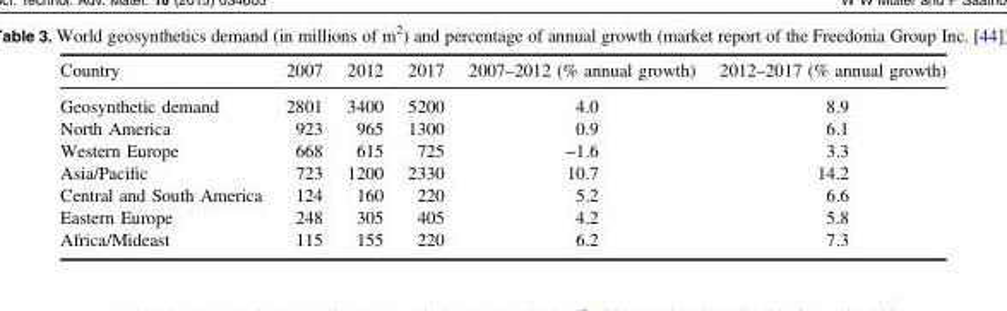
<table><thead><tr><td>Country</td><td>2007</td><td>2012</td><td>2017</td><td>2007–2012 (% annual growth)</td><td>2012–2017 (% annual growth)</td></tr></thead><tbody><tr><td>Geosynthetic demand</td><td>2801</td><td>3400</td><td>5200</td><td>4.0</td><td>8.9</td></tr><tr><td>North America</td><td>923</td><td>965</td><td>1300</td><td>0.9</td><td>6.1</td></tr><tr><td>Western Europe</td><td>668</td><td>615</td><td>725</td><td>−1.6</td><td>3.3</td></tr><tr><td>Asia/Pacific</td><td>723</td><td>1200</td><td>2330</td><td>10.7</td><td>14.2</td></tr><tr><td>Central and South America</td><td>124</td><td>160</td><td>220</td><td>5.2</td><td>6.6</td></tr><tr><td>Eastern Europe</td><td>248</td><td>305</td><td>405</td><td>4.2</td><td>5.8</td></tr><tr><td>Africa/Mideast</td><td>115</td><td>155</td><td>220</td><td>6.2</td><td>7.3</td></tr></tbody></table>